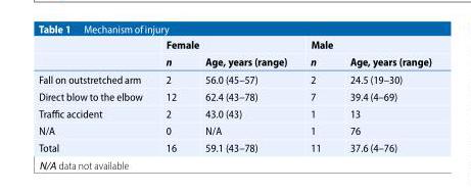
<table><thead><tr><td rowspan="2"></td><td colspan="2">Female</td><td colspan="2">Male</td></tr><tr><td>n</td><td>Age, years (range)</td><td>n</td><td>Age, years (range)</td></tr></thead><tbody><tr><td>Fall on outstretched arm</td><td>2</td><td>56.0 (45–57)</td><td>2</td><td>24.5 (19–30)</td></tr><tr><td>Direct blow to the elbow</td><td>12</td><td>62.4 (43–78)</td><td>7</td><td>39.4 (4–69)</td></tr><tr><td>Traffic accident</td><td>2</td><td>43.0 (43)</td><td>1</td><td>13</td></tr><tr><td>N/A</td><td>0</td><td>N/A</td><td>1</td><td>76</td></tr><tr><td>Total</td><td>16</td><td>59.1 (43–78)</td><td>11</td><td>37.6 (4–76)</td></tr></tbody></table>